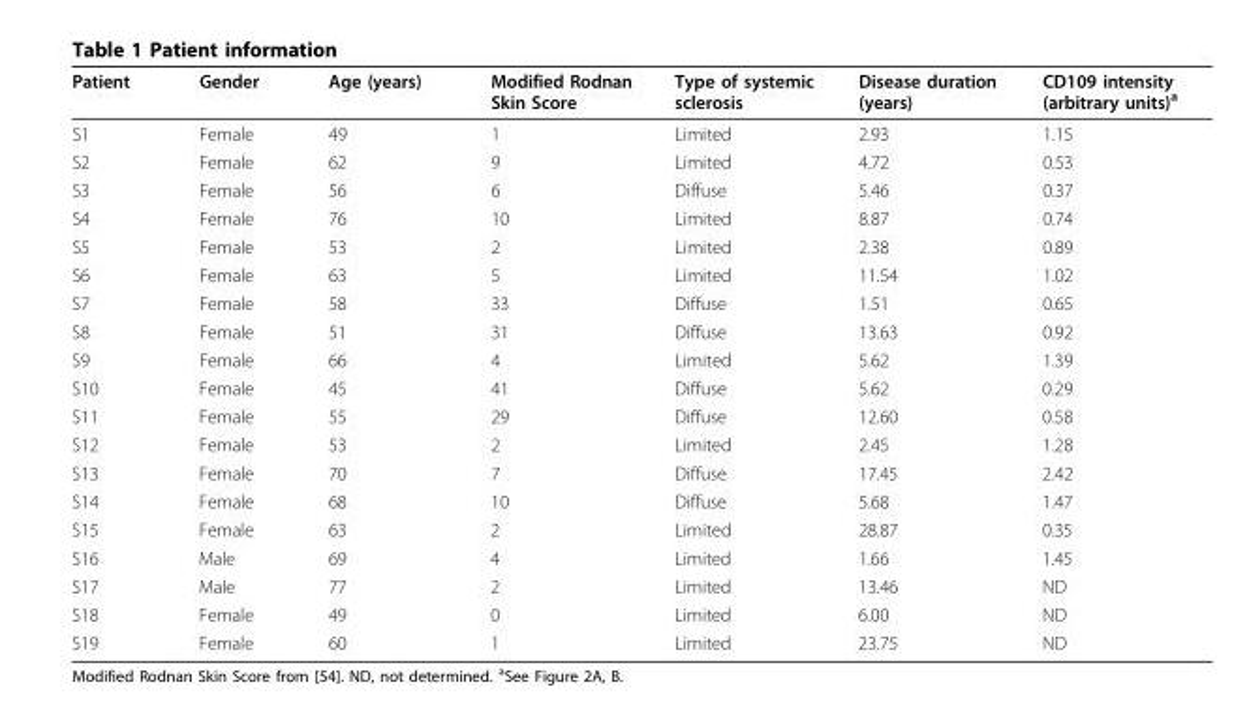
<table><thead><tr><td>Patient</td><td>Gender</td><td>Age (years)</td><td>Modified Rodnan Skin Score</td><td>Type of systemic sclerosis</td><td>Disease duration (years)</td><td>CD109 intensity (arbitrary units)<sup>a</sup></td></tr></thead><tbody><tr><td>S1</td><td>Female</td><td>49</td><td>1</td><td>Limited</td><td>2.93</td><td>1.15</td></tr><tr><td>S2</td><td>Female</td><td>62</td><td>9</td><td>Limited</td><td>4.72</td><td>0.53</td></tr><tr><td>S3</td><td>Female</td><td>56</td><td>6</td><td>Diffuse</td><td>5.46</td><td>0.37</td></tr><tr><td>S4</td><td>Female</td><td>76</td><td>10</td><td>Limited</td><td>8.87</td><td>0.74</td></tr><tr><td>S5</td><td>Female</td><td>53</td><td>2</td><td>Limited</td><td>2.38</td><td>0.89</td></tr><tr><td>S6</td><td>Female</td><td>63</td><td>5</td><td>Limited</td><td>11.54</td><td>1.02</td></tr><tr><td>S7</td><td>Female</td><td>58</td><td>33</td><td>Diffuse</td><td>1.51</td><td>0.65</td></tr><tr><td>S8</td><td>Female</td><td>51</td><td>31</td><td>Diffuse</td><td>13.63</td><td>0.92</td></tr><tr><td>S9</td><td>Female</td><td>66</td><td>4</td><td>Limited</td><td>5.62</td><td>1.39</td></tr><tr><td>S10</td><td>Female</td><td>45</td><td>41</td><td>Diffuse</td><td>5.62</td><td>0.29</td></tr><tr><td>S11</td><td>Female</td><td>55</td><td>29</td><td>Diffuse</td><td>12.60</td><td>0.58</td></tr><tr><td>S12</td><td>Female</td><td>53</td><td>2</td><td>Limited</td><td>2.45</td><td>1.28</td></tr><tr><td>S13</td><td>Female</td><td>70</td><td>7</td><td>Diffuse</td><td>17.45</td><td>2.42</td></tr><tr><td>S14</td><td>Female</td><td>68</td><td>10</td><td>Diffuse</td><td>5.68</td><td>1.47</td></tr><tr><td>S15</td><td>Female</td><td>63</td><td>2</td><td>Limited</td><td>28.87</td><td>0.35</td></tr><tr><td>S16</td><td>Male</td><td>69</td><td>4</td><td>Limited</td><td>1.66</td><td>1.45</td></tr><tr><td>S17</td><td>Male</td><td>77</td><td>2</td><td>Limited</td><td>13.46</td><td>ND</td></tr><tr><td>S18</td><td>Female</td><td>49</td><td>0</td><td>Limited</td><td>6.00</td><td>ND</td></tr><tr><td>S19</td><td>Female</td><td>60</td><td>1</td><td>Limited</td><td>23.75</td><td>ND</td></tr></tbody></table>